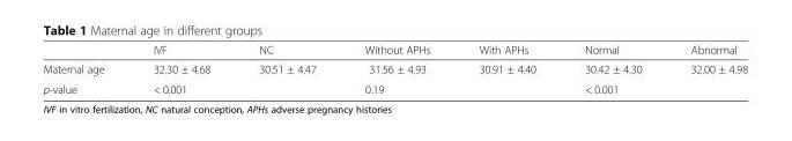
<table><thead><tr><td></td><td>IVF</td><td>NC</td><td>Without APHs</td><td>With APHs</td><td>Normal</td><td>Abnormal</td></tr></thead><tbody><tr><td>Maternal age</td><td>32.30 ± 4.68</td><td>30.51 ± 4.47</td><td>31.56 ± 4.93</td><td>30.91 ± 4.40</td><td>30.42 ± 4.30</td><td>32.00 ± 4.98</td></tr><tr><td>p-value</td><td colspan="2">&lt; 0.001</td><td colspan="2">0.19</td><td colspan="2">&lt; 0.001</td></tr></tbody></table>